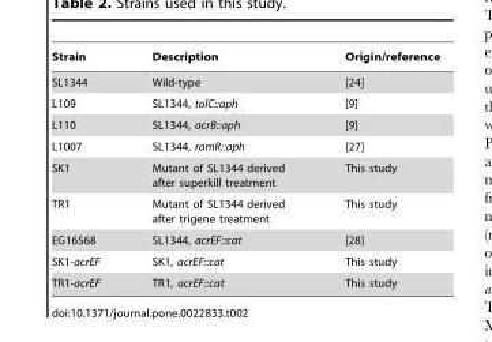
<table><thead><tr><td>Strain</td><td>Description</td><td>Origin/reference</td></tr></thead><tbody><tr><td>SL1344</td><td>Wild-type</td><td>[24]</td></tr><tr><td>L109</td><td>SL1344, tolC::aph</td><td>[9]</td></tr><tr><td>L110</td><td>SL1344, acrB::aph</td><td>[9]</td></tr><tr><td>L1007</td><td>SL1344, ramR::aph</td><td>[27]</td></tr><tr><td>SK1</td><td>Mutant of SL1344 derived after superkill treatment</td><td>This study</td></tr><tr><td>TR1</td><td>Mutant of SL1344 derived after trigene treatment</td><td>This study</td></tr><tr><td>EG16568</td><td>SL1344, acrEF::cat</td><td>[28]</td></tr><tr><td>SK1-acrEF</td><td>SK1, acrEF::cat</td><td>This study</td></tr><tr><td>TR1-acrEF</td><td>TR1, acrEF::cat</td><td>This study</td></tr></tbody></table>